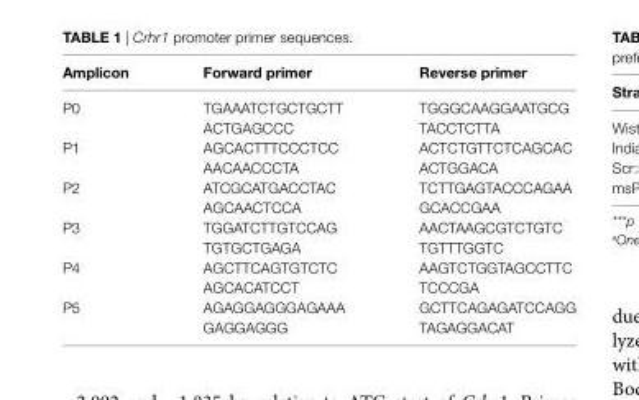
<table><thead><tr><td>amplicon</td><td>Forward primer</td><td>reverse primer</td></tr></thead><tbody><tr><td>P0</td><td>TGAAATCTGCTGCTT ACTGAGCCC</td><td>TGGGCAAGGAATGCG TACCTCTTA</td></tr><tr><td>P1</td><td>AGCACTTTCCCTCC AACAACCCTA</td><td>ACTCTGTTCTCAGCAC ACTGGACA</td></tr><tr><td>P2</td><td>ATCGCATGACCTAC AGCAACTCCA</td><td>TCTTGAGTACCCAGAA GCACCGAA</td></tr><tr><td>P3</td><td>TGGATCTTGTCCAG TGTGCTGAGA</td><td>AACTAAGCGTCTGTC TGTTTGGTC</td></tr><tr><td>P4</td><td>AGCTTCAGTGTCTC AGCACATCCT</td><td>AAGTCTGGTAGCCTTC TCCCGA</td></tr><tr><td>P5</td><td>AGAGGAGGGAGAAA GAGGAGGG</td><td>GCTTCAGAGATCCAGG TAGAGGACAT</td></tr></tbody></table>